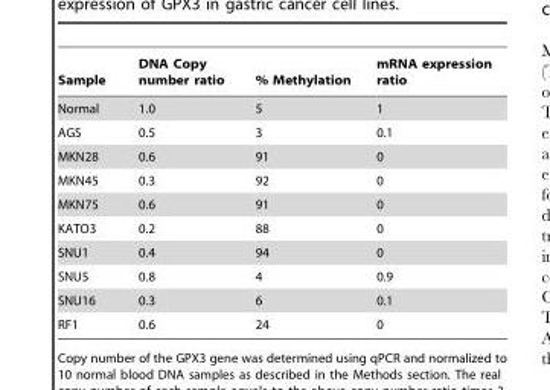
<table><thead><tr><td>Sample</td><td>DNA Copy number ratio</td><td>% Methylation</td><td>mRNA expression ratio</td></tr></thead><tbody><tr><td>Normal</td><td>1.0</td><td>5</td><td>1</td></tr><tr><td>AGS</td><td>0.5</td><td>3</td><td>0.1</td></tr><tr><td>MKN28</td><td>0.6</td><td>91</td><td>0</td></tr><tr><td>MKN45</td><td>0.3</td><td>92</td><td>0</td></tr><tr><td>MKN75</td><td>0.6</td><td>91</td><td>0</td></tr><tr><td>KATO3</td><td>0.2</td><td>88</td><td>0</td></tr><tr><td>SNU1</td><td>0.4</td><td>94</td><td>0</td></tr><tr><td>SNU5</td><td>0.8</td><td>4</td><td>0.9</td></tr><tr><td>SNU16</td><td>0.3</td><td>6</td><td>0.1</td></tr><tr><td>RF1</td><td>0.6</td><td>24</td><td>0</td></tr></tbody></table>